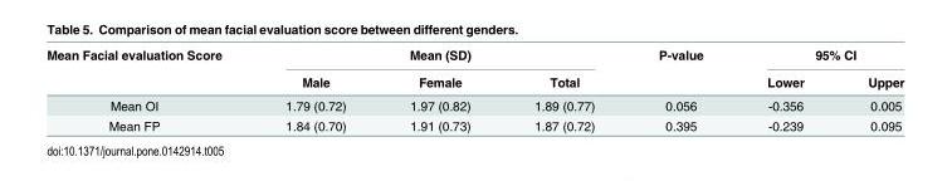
<table><thead><tr><td rowspan="2">Mean Facial evaluation Score</td><td colspan="3">Mean (SD)</td><td rowspan="2">P-value</td><td colspan="2">95% CI</td></tr><tr><td>Male</td><td>Female</td><td>Total</td><td>Lower</td><td>Upper</td></tr></thead><tbody><tr><td>Mean OI</td><td>1.79 (0.72)</td><td>1.97 (0.82)</td><td>1.89 (0.77)</td><td>0.056</td><td>-0.356</td><td>0.005</td></tr><tr><td>Mean FP</td><td>1.84 (0.70)</td><td>1.91 (0.73)</td><td>1.87 (0.72)</td><td>0.395</td><td>-0.239</td><td>0.095</td></tr></tbody></table>